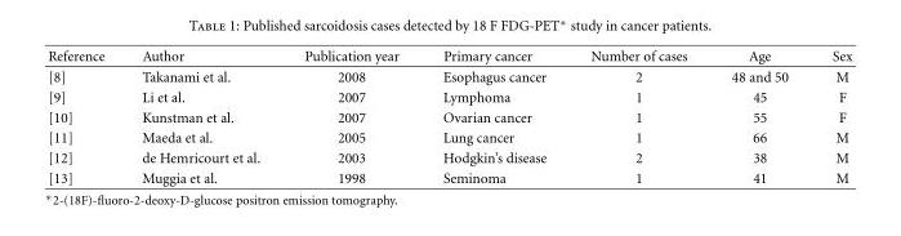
<table><thead><tr><td>Reference</td><td>Author</td><td>Publication year</td><td>Primary cancer</td><td>Number of cases</td><td>Age</td><td>Sex</td></tr></thead><tbody><tr><td>[8]</td><td>Takanami et al.</td><td>2008</td><td>Esophagus cancer</td><td>2</td><td>48 and 50</td><td>M</td></tr><tr><td>[9]</td><td>Li et al.</td><td>2007</td><td>Lymphoma</td><td>1</td><td>45</td><td>F</td></tr><tr><td>[10]</td><td>Kunstman et al.</td><td>2007</td><td>Ovarian cancer</td><td>1</td><td>55</td><td>F</td></tr><tr><td>[11]</td><td>Maeda et al.</td><td>2005</td><td>Lung cancer</td><td>1</td><td>66</td><td>M</td></tr><tr><td>[12]</td><td>de Hemricourt et al.</td><td>2003</td><td>Hodgkin’s disease</td><td>2</td><td>38</td><td>M</td></tr><tr><td>[13]</td><td>Muggia et al.</td><td>1998</td><td>Seminoma</td><td>1</td><td>41</td><td>M</td></tr></tbody></table>